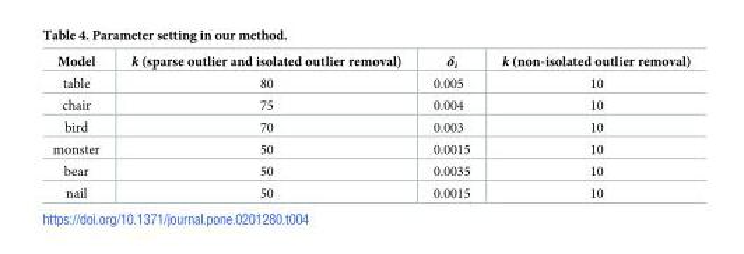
<table><thead><tr><td>Model</td><td>k (sparse outlier and isolated outlier removal)</td><td>δ<sub>i</sub></td><td>k (non-isolated outlier removal)</td></tr></thead><tbody><tr><td>table</td><td>80</td><td>0.005</td><td>10</td></tr><tr><td>chair</td><td>75</td><td>0.004</td><td>10</td></tr><tr><td>bird</td><td>70</td><td>0.003</td><td>10</td></tr><tr><td>monster</td><td>50</td><td>0.0015</td><td>10</td></tr><tr><td>bear</td><td>50</td><td>0.0035</td><td>10</td></tr><tr><td>nail</td><td>50</td><td>0.0015</td><td>10</td></tr></tbody></table>